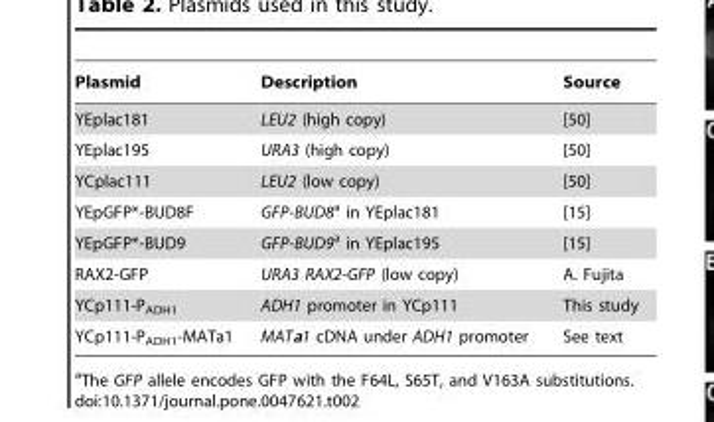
<table><thead><tr><td>Plasmid</td><td>Description</td><td>Source</td></tr></thead><tbody><tr><td>YEplac181</td><td>LEU2 (high copy)</td><td>[50]</td></tr><tr><td>YEplac195</td><td>URA3 (high copy)</td><td>[50]</td></tr><tr><td>YCplac111</td><td>LEU2 (low copy)</td><td>[50]</td></tr><tr><td>YEpGFP*-BUD8F</td><td>GFP-BUD8a in YEplac181</td><td>[15]</td></tr><tr><td>YEpGFP*-BUD9</td><td>GFP-BUD9a in YEplac195</td><td>[15]</td></tr><tr><td>RAX2-GFP</td><td>URA3 RAX2-GFP (low copy)</td><td>A. Fujita</td></tr><tr><td>YCp111-P<sub>ADH1</sub></td><td>ADH1 promoter in YCp111</td><td>This study</td></tr><tr><td>YCp111-P<sub>ADH1</sub>-MATa1</td><td>MATa1 cDNA under ADH1 promoter</td><td>See text</td></tr></tbody></table>